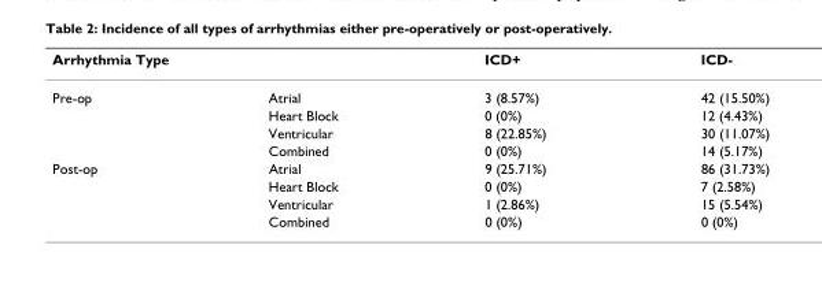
<table><thead><tr><td colspan="2">Arrhythmia Type</td><td rowspan="2">ICD+ 3 (8.57%)</td><td rowspan="2">ICD- 42 (15.50%)</td></tr><tr><td>Pre-op</td><td>Atrial</td></tr></thead><tbody><tr><td></td><td>Heart Block</td><td>0 (0%)</td><td>12 (4.43%)</td></tr><tr><td></td><td>Ventricular</td><td>8 (22.85%)</td><td>30 (11.07%)</td></tr><tr><td></td><td>Combined</td><td>0 (0%)</td><td>14 (5.17%)</td></tr><tr><td rowspan="4">Post-op</td><td>Atrial</td><td>9 (25.71%)</td><td>86 (31.73%)</td></tr><tr><td>Heart Block</td><td>0 (0%)</td><td>7 (2.58%)</td></tr><tr><td>Ventricular</td><td>1 (2.86%)</td><td>15 (5.54%)</td></tr><tr><td>Combined</td><td>0 (0%)</td><td>0 (0%)</td></tr></tbody></table>